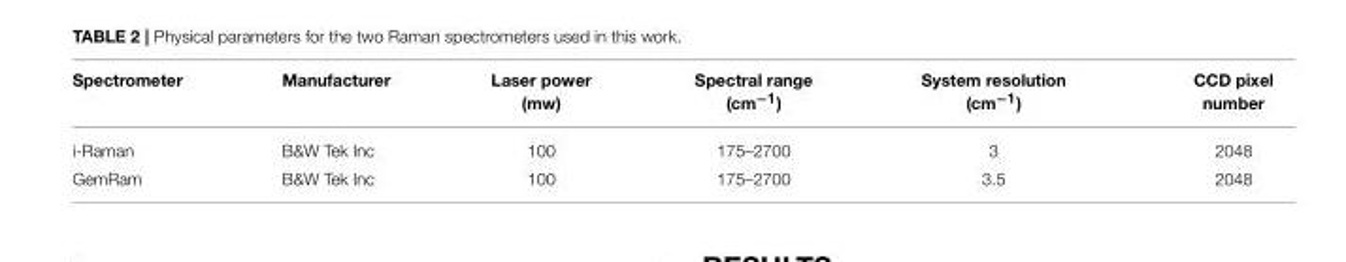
<table><thead><tr><td>Spectrometer</td><td>Manufacturer</td><td>Laser power (mw)</td><td>Spectral range (cm<sup>−1</sup>)</td><td>System resolution (cm<sup>−1</sup>)</td><td>CCD pixel number</td></tr></thead><tbody><tr><td>i-Raman</td><td>B&amp;W Tek Inc</td><td>100</td><td>175–2700</td><td>3</td><td>2048</td></tr><tr><td>GemRam</td><td>B&amp;W Tek Inc</td><td>100</td><td>175–2700</td><td>3.5</td><td>2048</td></tr></tbody></table>